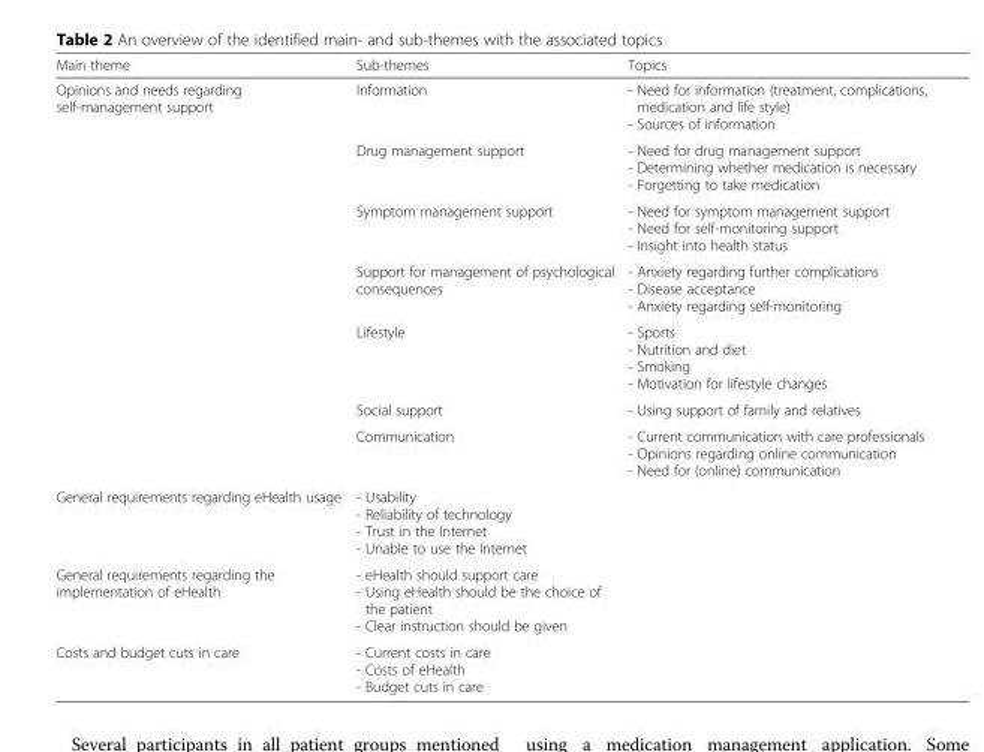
<table><thead><tr><td>Main theme</td><td>Sub-themes</td><td>Topics</td></tr></thead><tbody><tr><td rowspan="7">Opinions and needs regarding self-management support</td><td>Information</td><td>- Need for information (treatment, complications, medication and life style) - Sources of information</td></tr><tr><td>Drug management support</td><td>- Need for drug management support - Determining whether medication is necessary - Forgetting to take medication</td></tr><tr><td>Symptom management support</td><td>- Need for symptom management support - Need for self-monitoring support - Insight into health status</td></tr><tr><td>Support for management of psychological consequences</td><td>- Anxiety regarding further complications - Disease acceptance - Anxiety regarding self-monitoring</td></tr><tr><td>Lifestyle</td><td>- Sports - Nutrition and diet - Smoking - Motivation for lifestyle changes</td></tr><tr><td>Social support</td><td>- Using support of family and relatives</td></tr><tr><td>Communication</td><td>- Current communication with care professionals - Opinions regarding online communication - Need for (online) communication</td></tr><tr><td>General requirements regarding eHealth usage</td><td>- Usability - Reliability of technology - Trust in the Internet - Unable to use the Internet</td><td></td></tr><tr><td>General requirements regarding the implementation of eHealth</td><td>- eHealth should support care - Using eHealth should be the choice of the patient - Clear instruction should be given</td><td></td></tr><tr><td>Costs and budget cuts in care</td><td>- Current costs in care - Costs of eHealth - Budget cuts in care</td><td></td></tr></tbody></table>